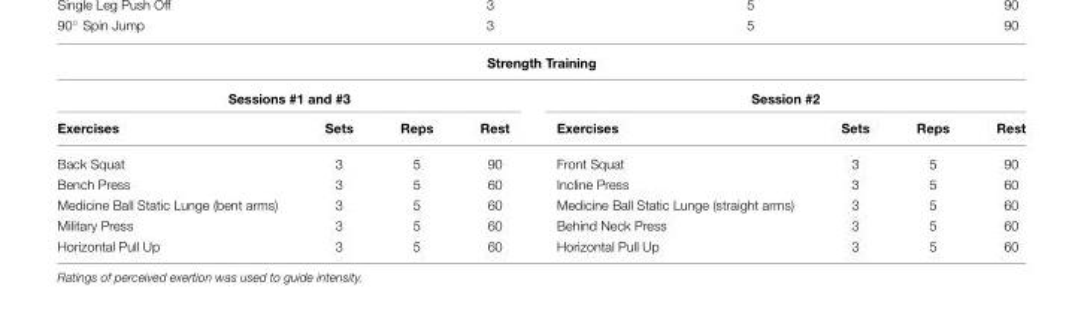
<table><thead><tr><td colspan="8">Strength Training</td></tr><tr><td colspan="4">Sessions #1 and #3</td><td colspan="4">Session #2</td></tr><tr><td>Exercises</td><td>Sets</td><td>Reps</td><td>Rest</td><td>Exercises</td><td>Sets</td><td>Reps</td><td>Rest</td></tr></thead><tbody><tr><td>Back Squat</td><td>3</td><td>5</td><td>90</td><td>Front Squat</td><td>3</td><td>5</td><td>90</td></tr><tr><td>Bench Press</td><td>3</td><td>5</td><td>60</td><td>Incline Press</td><td>3</td><td>5</td><td>60</td></tr><tr><td>Medicine Ball Static Lunge (bent arms)</td><td>3</td><td>5</td><td>60</td><td>Medicine Ball Static Lunge (straight arms)</td><td>3</td><td>5</td><td>60</td></tr><tr><td>Military Press</td><td>3</td><td>5</td><td>60</td><td>Behind Neck Press</td><td>3</td><td>5</td><td>60</td></tr><tr><td>Horizontal Pull Up</td><td>3</td><td>5</td><td>60</td><td>Horizontal Pull Up</td><td>3</td><td>5</td><td>60</td></tr></tbody></table>